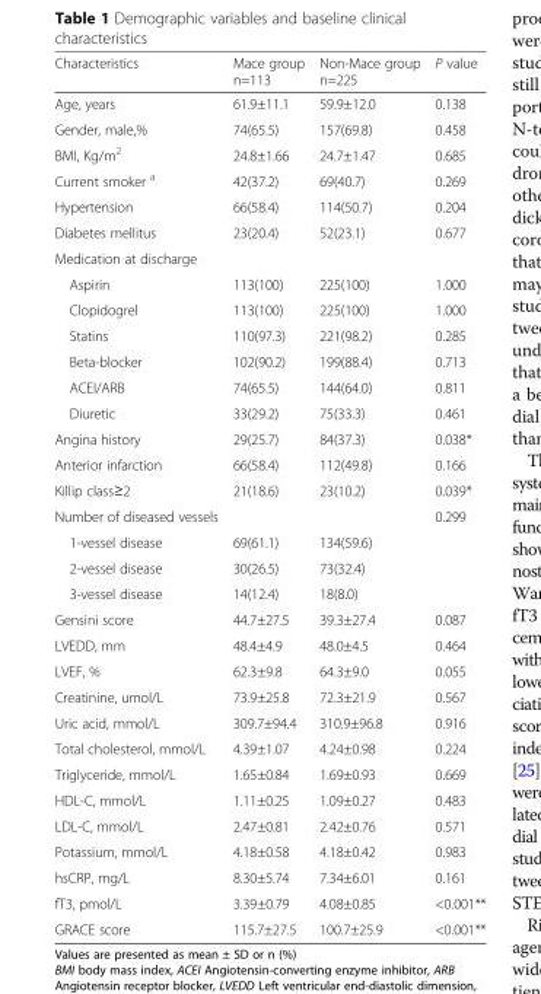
<table><thead><tr><td>Characteristics</td><td>Mace group n=113</td><td>Non-Mace group n=225</td><td>P value</td></tr></thead><tbody><tr><td>Age, years</td><td>61.9±11.1</td><td>59.9±12.0</td><td>0.138</td></tr><tr><td>Gender, male,%</td><td>74(65.5)</td><td>157(69.8)</td><td>0.458</td></tr><tr><td>BMI, Kg/m<sup>2</sup></td><td>24.8±1.66</td><td>24.7±1.47</td><td>0.685</td></tr><tr><td>Current smoker <sup>a</sup></td><td>42(37.2)</td><td>69(40.7)</td><td>0.269</td></tr><tr><td>Hypertension</td><td>66(58.4)</td><td>114(50.7)</td><td>0.204</td></tr><tr><td>Diabetes mellitus</td><td>23(20.4)</td><td>52(23.1)</td><td>0.677</td></tr><tr><td colspan="4">Medication at discharge</td></tr><tr><td>Aspirin</td><td>113(100)</td><td>225(100)</td><td>1.000</td></tr><tr><td>Clopidogrel</td><td>113(100)</td><td>225(100)</td><td>1.000</td></tr><tr><td>Statins</td><td>110(97.3)</td><td>221(98.2)</td><td>0.285</td></tr><tr><td>Beta-blocker</td><td>102(90.2)</td><td>199(88.4)</td><td>0.713</td></tr><tr><td>ACEI/ARB</td><td>74(65.5)</td><td>144(64.0)</td><td>0.811</td></tr><tr><td>Diuretic</td><td>33(29.2)</td><td>75(33.3)</td><td>0.461</td></tr><tr><td>Angina history</td><td>29(25.7)</td><td>84(37.3)</td><td>0.038*</td></tr><tr><td>Anterior infarction</td><td>66(58.4)</td><td>112(49.8)</td><td>0.166</td></tr><tr><td>Killip class≥2</td><td>21(18.6)</td><td>23(10.2)</td><td>0.039*</td></tr><tr><td>Number of diseased vessels</td><td></td><td></td><td>0.299</td></tr><tr><td>1-vessel disease</td><td>69(61.1)</td><td>134(59.6)</td><td></td></tr><tr><td>2-vessel disease</td><td>30(26.5)</td><td>73(32.4)</td><td></td></tr><tr><td>3-vessel disease</td><td>14(12.4)</td><td>18(8.0)</td><td></td></tr><tr><td>Gensini score</td><td>44.7±27.5</td><td>39.3±27.4</td><td>0.087</td></tr><tr><td>LVEDD, mm</td><td>48.4±4.9</td><td>48.0±4.5</td><td>0.464</td></tr><tr><td>LVEF, %</td><td>62.3±9.8</td><td>64.3±9.0</td><td>0.055</td></tr><tr><td>Creatinine, umol/L</td><td>73.9±25.8</td><td>72.3±21.9</td><td>0.567</td></tr><tr><td>Uric acid, mmol/L</td><td>309.7±94.4</td><td>310.9±96.8</td><td>0.916</td></tr><tr><td>Total cholesterol, mmol/L</td><td>4.39±1.07</td><td>4.24±0.98</td><td>0.224</td></tr><tr><td>Triglyceride, mmol/L</td><td>1.65±0.84</td><td>1.69±0.93</td><td>0.669</td></tr><tr><td>HDL-C, mmol/L</td><td>1.11±0.25</td><td>1.09±0.27</td><td>0.483</td></tr><tr><td>LDL-C, mmol/L</td><td>2.47±0.81</td><td>2.42±0.76</td><td>0.571</td></tr><tr><td>Potassium, mmol/L</td><td>4.18±0.58</td><td>4.18±0.42</td><td>0.983</td></tr><tr><td>hsCRP, mg/L</td><td>8.30±5.74</td><td>7.34±6.01</td><td>0.161</td></tr><tr><td>fT3, pmol/L</td><td>3.39±0.79</td><td>4.08±0.85</td><td>&lt;0.001**</td></tr><tr><td>GRACE score</td><td>115.7±27.5</td><td>100.7±25.9</td><td>&lt;0.001**</td></tr></tbody></table>